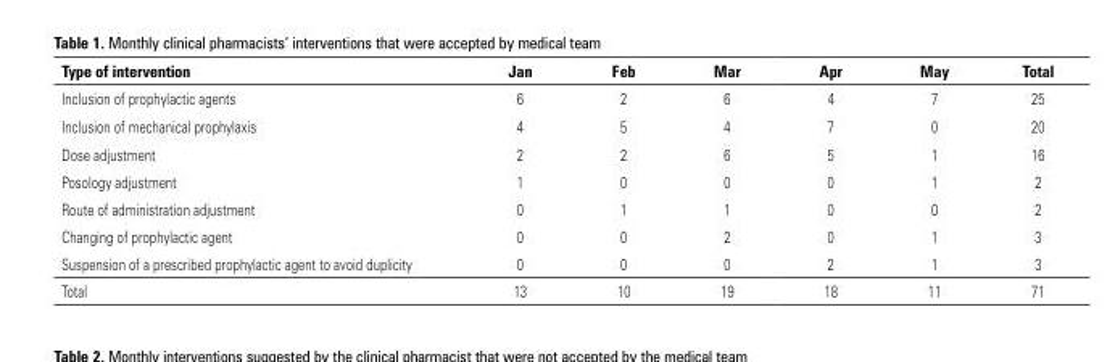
<table><thead><tr><td>Type of intervention</td><td>Jan</td><td>Feb</td><td>Mar</td><td>Apr</td><td>May</td><td>Total</td></tr></thead><tbody><tr><td>Inclusion of prophylactic agents</td><td>6</td><td>2</td><td>6</td><td>4</td><td>7</td><td>25</td></tr><tr><td>Inclusion of mechanical prophylaxis</td><td>4</td><td>5</td><td>4</td><td>7</td><td>0</td><td>20</td></tr><tr><td>Dose adjustment</td><td>2</td><td>2</td><td>6</td><td>5</td><td>1</td><td>16</td></tr><tr><td>Posology adjustment</td><td>1</td><td>0</td><td>0</td><td>0</td><td>1</td><td>2</td></tr><tr><td>Route of administration adjustment</td><td>0</td><td>1</td><td>1</td><td>0</td><td>0</td><td>2</td></tr><tr><td>Changing of prophylactic agent</td><td>0</td><td>0</td><td>2</td><td>0</td><td>1</td><td>3</td></tr><tr><td>Suspension of a prescribed prophylactic agent to avoid duplicity</td><td>0</td><td>0</td><td>0</td><td>2</td><td>1</td><td>3</td></tr><tr><td>Total</td><td>13</td><td>10</td><td>19</td><td>18</td><td>11</td><td>71</td></tr></tbody></table>